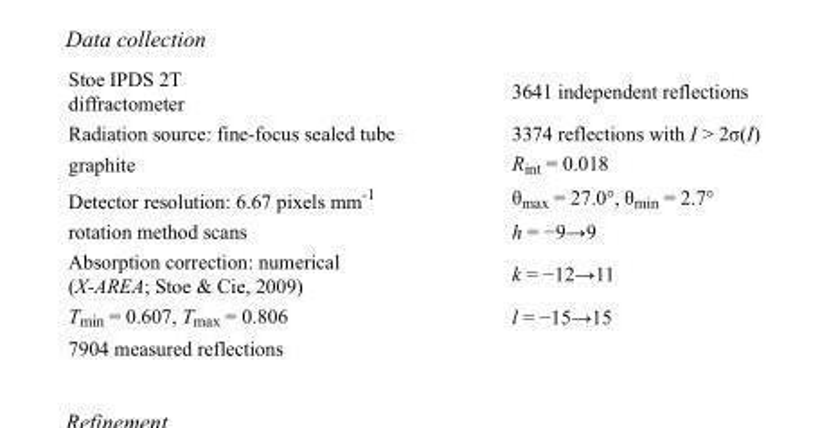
<table><tbody><tr><td>Stoe IPDS 2T diffractometer</td><td>3641 independent reflections</td></tr><tr><td>Radiation source: fine-focus sealed tube</td><td>3374 reflections with I &gt; 2σ(I)</td></tr><tr><td>graphite</td><td>R<sub>int</sub> = 0.018</td></tr><tr><td>Detector resolution: 6.67 pixels mm<sup>-1</sup></td><td>θ<sub>max</sub> = 27.0°, θ<sub>min</sub> = 2.7°</td></tr><tr><td>rotation method scans</td><td>h = −9→9</td></tr><tr><td>Absorption correction: numerical (X-AREA; Stoe &amp; Cie, 2009)</td><td>k = −12→11</td></tr><tr><td>T<sub>min</sub> = 0.607, T<sub>max</sub> = 0.806</td><td>l = −15→15</td></tr><tr><td>7904 measured reflections</td><td></td></tr></tbody></table>